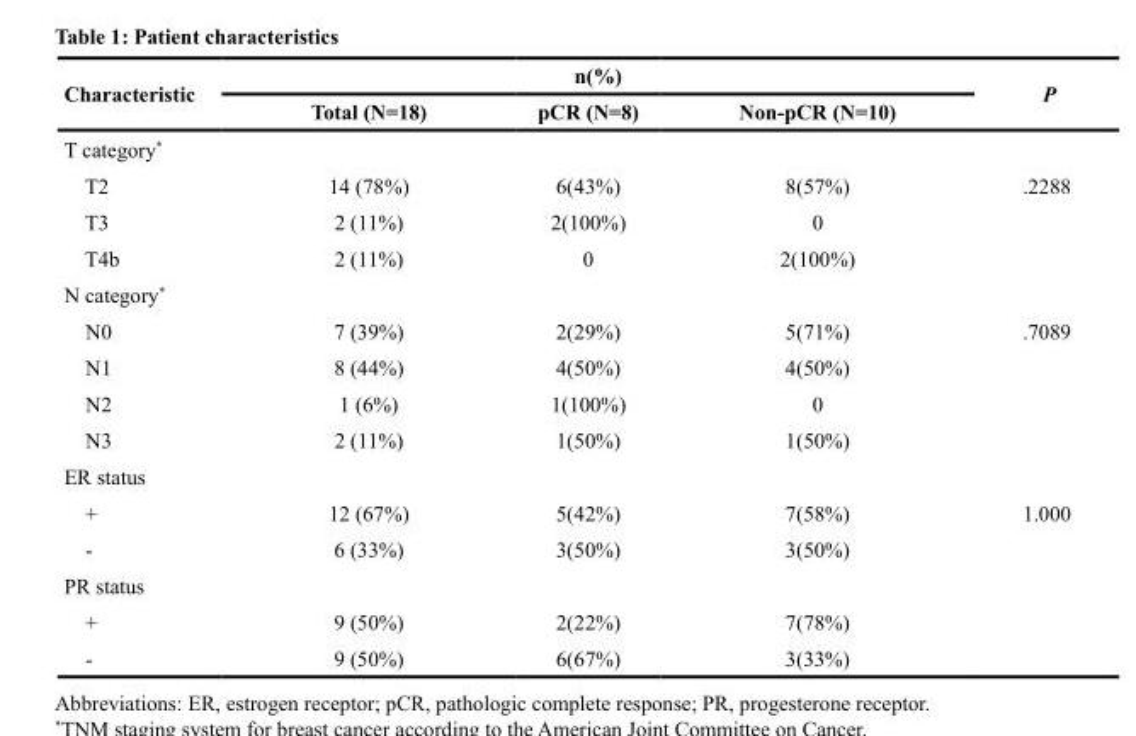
<table><thead><tr><td rowspan="2">Characteristic</td><td colspan="3">n(%)</td><td rowspan="2">P</td></tr><tr><td>Total (N=18)</td><td>pCR (N=8)</td><td>Non-pCR (N=10)</td></tr></thead><tbody><tr><td colspan="5">T category*</td></tr><tr><td>T2</td><td>14 (78%)</td><td>6(43%)</td><td>8(57%)</td><td>.2288</td></tr><tr><td>T3</td><td>2 (11%)</td><td>2(100%)</td><td>0</td><td></td></tr><tr><td>T4b</td><td>2 (11%)</td><td>0</td><td>2(100%)</td><td></td></tr><tr><td colspan="5">N category*</td></tr><tr><td>N0</td><td>7 (39%)</td><td>2(29%)</td><td>5(71%)</td><td>.7089</td></tr><tr><td>N1</td><td>8 (44%)</td><td>4(50%)</td><td>4(50%)</td><td></td></tr><tr><td>N2</td><td>1 (6%)</td><td>1(100%)</td><td>0</td><td></td></tr><tr><td>N3</td><td>2 (11%)</td><td>1(50%)</td><td>1(50%)</td><td></td></tr><tr><td colspan="5">ER status</td></tr><tr><td>+</td><td>12 (67%)</td><td>5(42%)</td><td>7(58%)</td><td>1.000</td></tr><tr><td>-</td><td>6 (33%)</td><td>3(50%)</td><td>3(50%)</td><td></td></tr><tr><td colspan="5">PR status</td></tr><tr><td>+</td><td>9 (50%)</td><td>2(22%)</td><td>7(78%)</td><td></td></tr><tr><td>-</td><td>9 (50%)</td><td>6(67%)</td><td>3(33%)</td><td></td></tr></tbody></table>